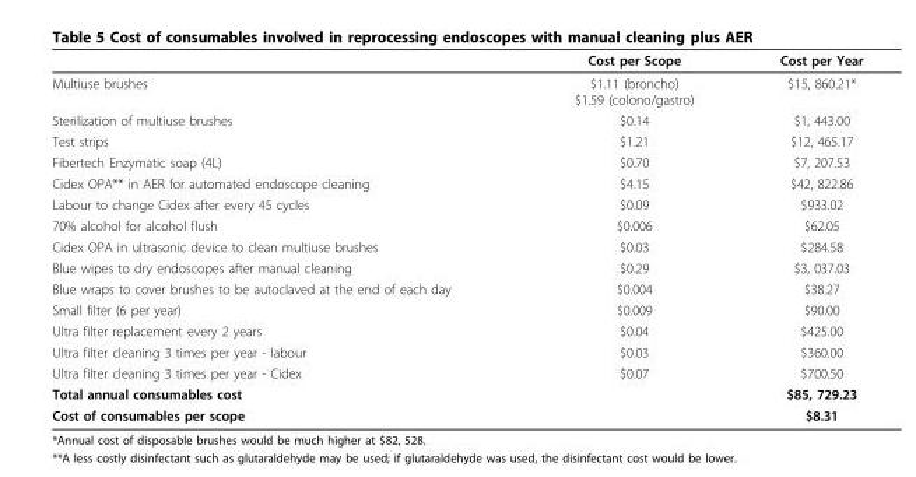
<table><thead><tr><td></td><td>Cost per Scope</td><td>Cost per Year</td></tr></thead><tbody><tr><td>Multiuse brushes</td><td>$1.11 (broncho) $1.59 (colono/gastro)</td><td>$15, 860.21*</td></tr><tr><td>Sterilization of multiuse brushes</td><td>$0.14</td><td>$1, 443.00</td></tr><tr><td>Test strips</td><td>$1.21</td><td>$12, 465.17</td></tr><tr><td>Fibertech Enzymatic soap (4L)</td><td>$0.70</td><td>$7, 207.53</td></tr><tr><td>Cidex OPA** in AER for automated endoscope cleaning</td><td>$4.15</td><td>$42, 822.86</td></tr><tr><td>Labour to change Cidex after every 45 cycles</td><td>$0.09</td><td>$933.02</td></tr><tr><td>70% alcohol for alcohol flush</td><td>$0.006</td><td>$62.05</td></tr><tr><td>Cidex OPA in ultrasonic device to clean multiuse brushes</td><td>$0.03</td><td>$284.58</td></tr><tr><td>Blue wipes to dry endoscopes after manual cleaning</td><td>$0.29</td><td>$3, 037.03</td></tr><tr><td>Blue wraps to cover brushes to be autoclaved at the end of each day</td><td>$0.004</td><td>$38.27</td></tr><tr><td>Small filter (6 per year)</td><td>$0.009</td><td>$90.00</td></tr><tr><td>Ultra filter replacement every 2 years</td><td>$0.04</td><td>$425.00</td></tr><tr><td>Ultra filter cleaning 3 times per year - labour</td><td>$0.03</td><td>$360.00</td></tr><tr><td>Ultra filter cleaning 3 times per year - Cidex</td><td>$0.07</td><td>$700.50</td></tr><tr><td>Total annual consumables cost</td><td></td><td>$85, 729.23</td></tr><tr><td>Cost of consumables per scope</td><td></td><td>$8.31</td></tr></tbody></table>